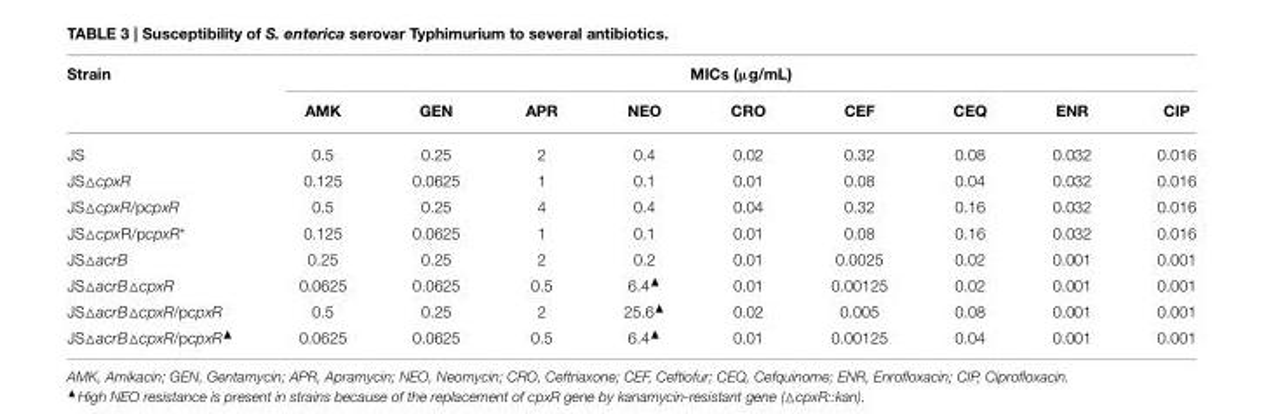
<table><thead><tr><td rowspan="2">Strain</td><td colspan="9">MICs (µg/mL)</td></tr><tr><td>AMK</td><td>GEN</td><td>APR</td><td>NEO</td><td>CRO</td><td>CEF</td><td>CEQ</td><td>ENR</td><td>CIP</td></tr></thead><tbody><tr><td>JS</td><td>0.5</td><td>0.25</td><td>2</td><td>0.4</td><td>0.02</td><td>0.32</td><td>0.08</td><td>0.032</td><td>0.016</td></tr><tr><td>JS△cpxR</td><td>0.125</td><td>0.0625</td><td>1</td><td>0.1</td><td>0.01</td><td>0.08</td><td>0.04</td><td>0.032</td><td>0.016</td></tr><tr><td>JS△cpxR/pcpxR</td><td>0.5</td><td>0.25</td><td>4</td><td>0.4</td><td>0.04</td><td>0.32</td><td>0.16</td><td>0.032</td><td>0.016</td></tr><tr><td>JS△cpxR/pcpxR*</td><td>0.125</td><td>0.0625</td><td>1</td><td>0.1</td><td>0.01</td><td>0.08</td><td>0.16</td><td>0.032</td><td>0.016</td></tr><tr><td>JS△acrB</td><td>0.25</td><td>0.25</td><td>2</td><td>0.2</td><td>0.01</td><td>0.0025</td><td>0.02</td><td>0.001</td><td>0.001</td></tr><tr><td>JS△acrB△cpxR</td><td>0.0625</td><td>0.0625</td><td>0.5</td><td>6.4▲</td><td>0.01</td><td>0.00125</td><td>0.02</td><td>0.001</td><td>0.001</td></tr><tr><td>JS△acrB△cpxR/pcpxR</td><td>0.5</td><td>0.25</td><td>2</td><td>25.6▲</td><td>0.02</td><td>0.005</td><td>0.08</td><td>0.001</td><td>0.001</td></tr><tr><td>JS△acrB△cpxR/pcpxR▲</td><td>0.0625</td><td>0.0625</td><td>0.5</td><td>6.4▲</td><td>0.01</td><td>0.00125</td><td>0.04</td><td>0.001</td><td>0.001</td></tr></tbody></table>